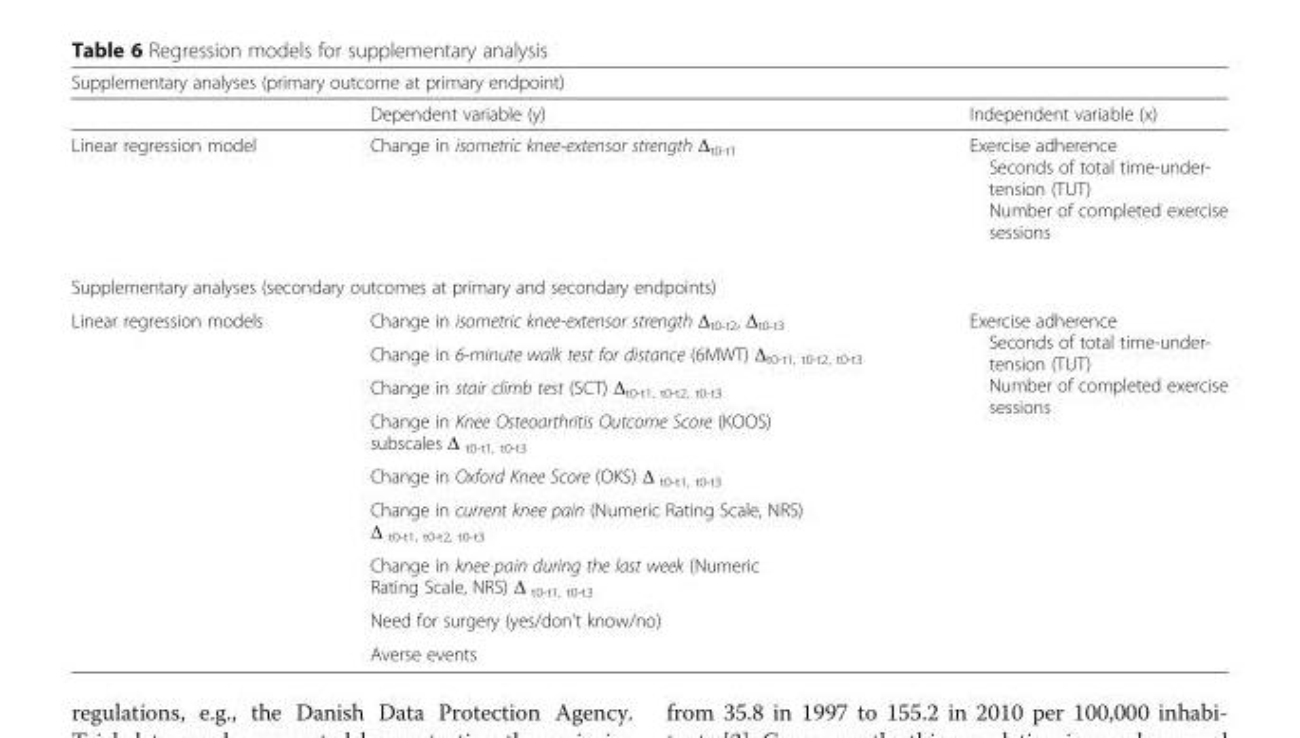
<table><thead><tr><td colspan="3">Supplementary analyses (primary outcome at primary endpoint)</td></tr><tr><td></td><td>Dependent variable (y)</td><td>Independent variable (x)</td></tr></thead><tbody><tr><td>Linear regression model</td><td>Change in isometric knee-extensor strength Δ<sub>t0-t1</sub></td><td>Exercise adherence Seconds of total time-under- tension (TUT) Number of completed exercise sessions</td></tr><tr><td colspan="3">Supplementary analyses (secondary outcomes at primary and secondary endpoints)</td></tr><tr><td rowspan="9">Linear regression models</td><td>Change in isometric knee-extensor strength Δ<sub>t0-t2</sub>, Δ<sub>t0-t3</sub></td><td rowspan="9">Exercise adherence Seconds of total time-under- tension (TUT) Number of completed exercise sessions</td></tr><tr><td>Change in 6-minute walk test for distance (6MWT) Δ<sub>t0-t1, t0-t2, t0-t3</sub></td></tr><tr><td>Change in stair climb test (SCT) Δ<sub>t0-t1, t0-t2, t0-t3</sub></td></tr><tr><td>Change in Knee Osteoarthritis Outcome Score (KOOS) subscales Δ <sub>t0-t1, t0-t3</sub></td></tr><tr><td>Change in Oxford Knee Score (OKS) Δ <sub>t0-t1, t0-t3</sub></td></tr><tr><td>Change in current knee pain (Numeric Rating Scale, NRS) Δ <sub>t0-t1, t0-t2, t0-t3</sub></td></tr><tr><td>Change in knee pain during the last week (Numeric Rating Scale, NRS) Δ <sub>t0-t1, t0-t3</sub></td></tr><tr><td>Need for surgery (yes/don’t know/no)</td></tr><tr><td>Averse events</td></tr></tbody></table>